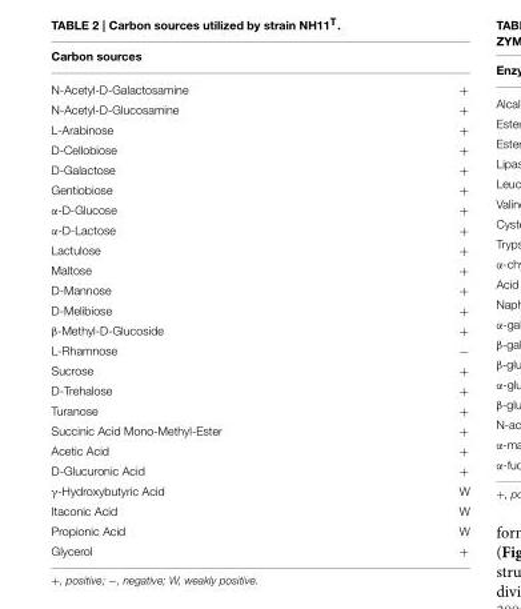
<table><thead><tr><td colspan="2">Carbon sources</td></tr><tr><td>N-Acetyl-D-Galactosamine</td><td>+</td></tr></thead><tbody><tr><td>N-Acetyl-D-Glucosamine</td><td>+</td></tr><tr><td>L-Arabinose</td><td>+</td></tr><tr><td>D-Cellobiose</td><td>+</td></tr><tr><td>D-Galactose</td><td>+</td></tr><tr><td>Gentiobiose</td><td>+</td></tr><tr><td>α-D-Glucose</td><td>+</td></tr><tr><td>α-D-Lactose</td><td>+</td></tr><tr><td>Lactulose</td><td>+</td></tr><tr><td>Maltose</td><td>+</td></tr><tr><td>D-Mannose</td><td>+</td></tr><tr><td>D-Melibiose</td><td>+</td></tr><tr><td>β-Methyl-D-Glucoside</td><td>+</td></tr><tr><td>L-Rhamnose</td><td>−</td></tr><tr><td>Sucrose</td><td>+</td></tr><tr><td>D-Trehalose</td><td>+</td></tr><tr><td>Turanose</td><td>+</td></tr><tr><td>Succinic Acid Mono-Methyl-Ester</td><td>+</td></tr><tr><td>Acetic Acid</td><td>+</td></tr><tr><td>D-Glucuronic Acid</td><td>+</td></tr><tr><td>γ-Hydroxybutyric Acid</td><td>W</td></tr><tr><td>Itaconic Acid</td><td>W</td></tr><tr><td>Propionic Acid</td><td>W</td></tr><tr><td>Glycerol</td><td>+</td></tr></tbody></table>